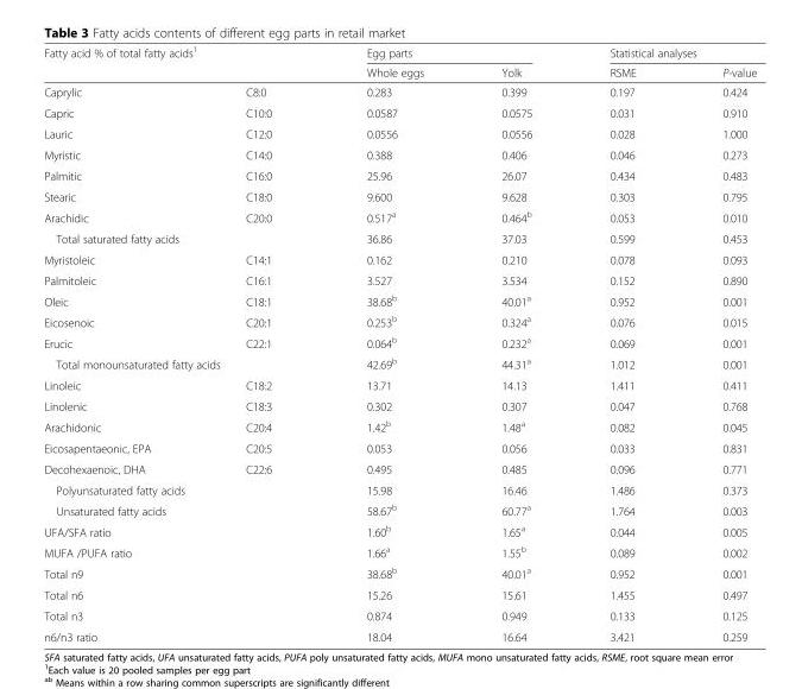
<table><thead><tr><td rowspan="2" colspan="2">Fatty acid % of total fatty acids<sup>1</sup></td><td colspan="2">Egg parts</td><td colspan="2">Statistical analyses</td></tr><tr><td rowspan="2">Whole eggs 0.283</td><td rowspan="2">Yolk 0.399</td><td rowspan="2">RSME 0.197</td><td rowspan="2">P-value 0.424</td></tr><tr><td>Caprylic</td><td>C8:0</td></tr></thead><tbody><tr><td>Capric</td><td>C10:0</td><td>0.0587</td><td>0.0575</td><td>0.031</td><td>0.910</td></tr><tr><td>Lauric</td><td>C12:0</td><td>0.0556</td><td>0.0556</td><td>0.028</td><td>1.000</td></tr><tr><td>Myristic</td><td>C14:0</td><td>0.388</td><td>0.406</td><td>0.046</td><td>0.273</td></tr><tr><td>Palmitic</td><td>C16:0</td><td>25.96</td><td>26.07</td><td>0.434</td><td>0.483</td></tr><tr><td>Stearic</td><td>C18:0</td><td>9.600</td><td>9.628</td><td>0.303</td><td>0.795</td></tr><tr><td>Arachidic</td><td>C20:0</td><td>0.517<sup>a</sup></td><td>0.464<sup>b</sup></td><td>0.053</td><td>0.010</td></tr><tr><td colspan="2">Total saturated fatty acids</td><td>36.86</td><td>37.03</td><td>0.599</td><td>0.453</td></tr><tr><td>Myristoleic</td><td>C14:1</td><td>0.162</td><td>0.210</td><td>0.078</td><td>0.093</td></tr><tr><td>Palmitoleic</td><td>C16:1</td><td>3.527</td><td>3.534</td><td>0.152</td><td>0.890</td></tr><tr><td>Oleic</td><td>C18:1</td><td>38.68<sup>b</sup></td><td>40.01<sup>a</sup></td><td>0.952</td><td>0.001</td></tr><tr><td>Eicosenoic</td><td>C20:1</td><td>0.253<sup>b</sup></td><td>0.324<sup>a</sup></td><td>0.076</td><td>0.015</td></tr><tr><td>Erucic</td><td>C22:1</td><td>0.064<sup>b</sup></td><td>0.232<sup>a</sup></td><td>0.069</td><td>0.001</td></tr><tr><td colspan="2">Total monounsaturated fatty acids</td><td>42.69<sup>b</sup></td><td>44.31<sup>a</sup></td><td>1.012</td><td>0.001</td></tr><tr><td>Linoleic</td><td>C18:2</td><td>13.71</td><td>14.13</td><td>1.411</td><td>0.411</td></tr><tr><td>Linolenic</td><td>C18:3</td><td>0.302</td><td>0.307</td><td>0.047</td><td>0.768</td></tr><tr><td>Arachidonic</td><td>C20:4</td><td>1.42<sup>b</sup></td><td>1.48<sup>a</sup></td><td>0.082</td><td>0.045</td></tr><tr><td>Eicosapentaeonic, EPA</td><td>C20:5</td><td>0.053</td><td>0.056</td><td>0.033</td><td>0.831</td></tr><tr><td>Decohexaenoic, DHA</td><td>C22:6</td><td>0.495</td><td>0.485</td><td>0.096</td><td>0.771</td></tr><tr><td colspan="2">Polyunsaturated fatty acids</td><td>15.98</td><td>16.46</td><td>1.486</td><td>0.373</td></tr><tr><td colspan="2">Unsaturated fatty acids</td><td>58.67<sup>b</sup></td><td>60.77<sup>a</sup></td><td>1.764</td><td>0.003</td></tr><tr><td colspan="2">UFA/SFA ratio</td><td>1.60<sup>b</sup></td><td>1.65<sup>a</sup></td><td>0.044</td><td>0.005</td></tr><tr><td colspan="2">MUFA /PUFA ratio</td><td>1.66<sup>a</sup></td><td>1.55<sup>b</sup></td><td>0.089</td><td>0.002</td></tr><tr><td colspan="2">Total n9</td><td>38.68<sup>b</sup></td><td>40.01<sup>a</sup></td><td>0.952</td><td>0.001</td></tr><tr><td colspan="2">Total n6</td><td>15.26</td><td>15.61</td><td>1.455</td><td>0.497</td></tr><tr><td colspan="2">Total n3</td><td>0.874</td><td>0.949</td><td>0.133</td><td>0.125</td></tr><tr><td colspan="2">n6/n3 ratio</td><td>18.04</td><td>16.64</td><td>3.421</td><td>0.259</td></tr></tbody></table>